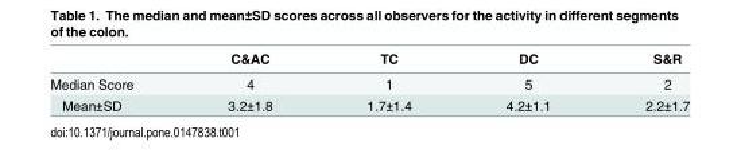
<table><thead><tr><td></td><td>C&amp;AC</td><td>TC</td><td>DC</td><td>S&amp;R</td></tr></thead><tbody><tr><td>Median Score</td><td>4</td><td>1</td><td>5</td><td>2</td></tr><tr><td>Mean±SD</td><td>3.2±1.8</td><td>1.7±1.4</td><td>4.2±1.1</td><td>2.2±1.7</td></tr></tbody></table>